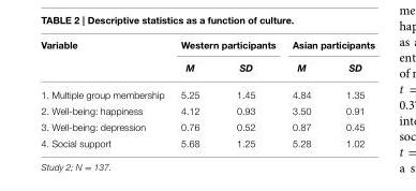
<table><thead><tr><td rowspan="2">Variable</td><td colspan="2">Western participants</td><td colspan="2">Asian participants</td></tr><tr><td>M</td><td>SD</td><td>M</td><td>SD</td></tr></thead><tbody><tr><td>1. Multiple group membership</td><td>5.25</td><td>1.45</td><td>4.84</td><td>1.35</td></tr><tr><td>2. Well-being: happiness</td><td>4.12</td><td>0.93</td><td>3.50</td><td>0.91</td></tr><tr><td>3. Well-being: depression</td><td>0.76</td><td>0.52</td><td>0.87</td><td>0.45</td></tr><tr><td>4. Social support</td><td>5.68</td><td>1.25</td><td>5.28</td><td>1.02</td></tr></tbody></table>